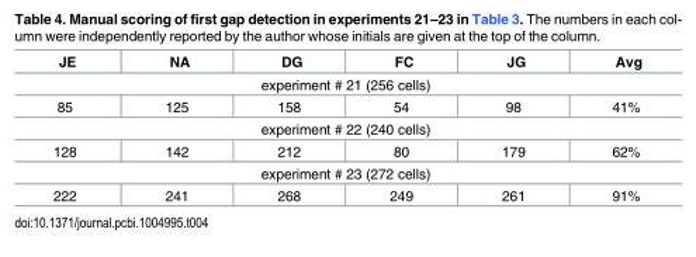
<table><thead><tr><td>JE</td><td>NA</td><td>DG</td><td>FC</td><td>JG</td><td>Avg</td></tr></thead><tbody><tr><td colspan="6">experiment # 21 (256 cells)</td></tr><tr><td>85</td><td>125</td><td>158</td><td>54</td><td>98</td><td>41%</td></tr><tr><td colspan="6">experiment # 22 (240 cells)</td></tr><tr><td>128</td><td>142</td><td>212</td><td>80</td><td>179</td><td>62%</td></tr><tr><td colspan="6">experiment # 23 (272 cells)</td></tr><tr><td>222</td><td>241</td><td>268</td><td>249</td><td>261</td><td>91%</td></tr></tbody></table>